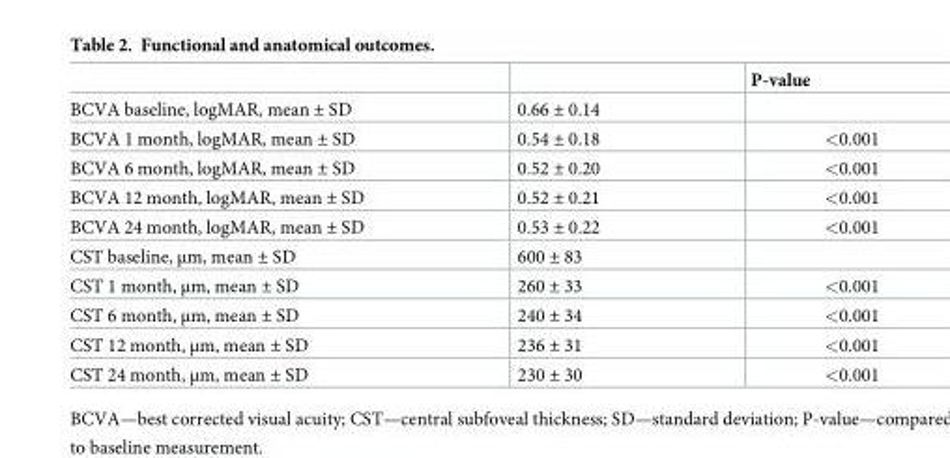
<table><thead><tr><td></td><td></td><td>P-value</td></tr></thead><tbody><tr><td>BCVA baseline, logMAR, mean ± SD</td><td>0.66 ± 0.14</td><td></td></tr><tr><td>BCVA 1 month, logMAR, mean ± SD</td><td>0.54 ± 0.18</td><td>&lt;0.001</td></tr><tr><td>BCVA 6 month, logMAR, mean ± SD</td><td>0.52 ± 0.20</td><td>&lt;0.001</td></tr><tr><td>BCVA 12 month, logMAR, mean ± SD</td><td>0.52 ± 0.21</td><td>&lt;0.001</td></tr><tr><td>BCVA 24 month, logMAR, mean ± SD</td><td>0.53 ± 0.22</td><td>&lt;0.001</td></tr><tr><td>CST baseline, μm, mean ± SD</td><td>600 ± 83</td><td></td></tr><tr><td>CST 1 month, μm, mean ± SD</td><td>260 ± 33</td><td>&lt;0.001</td></tr><tr><td>CST 6 month, μm, mean ± SD</td><td>240 ± 34</td><td>&lt;0.001</td></tr><tr><td>CST 12 month, μm, mean ± SD</td><td>236 ± 31</td><td>&lt;0.001</td></tr><tr><td>CST 24 month, μm, mean ± SD</td><td>230 ± 30</td><td>&lt;0.001</td></tr></tbody></table>